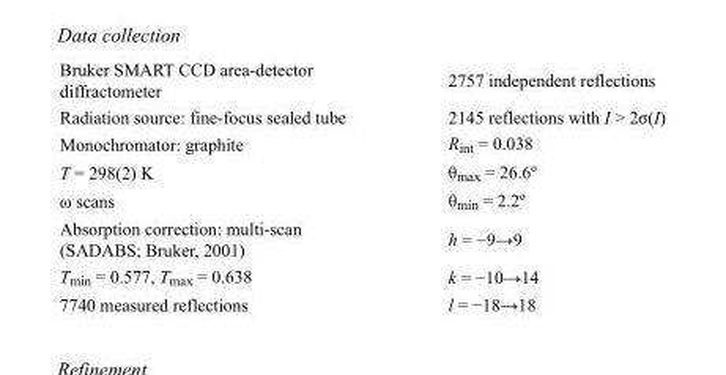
<table><tbody><tr><td>Bruker SMART CCD area-detector diffractometer</td><td>2757 independent reflections</td></tr><tr><td>Radiation source: fine-focus sealed tube</td><td>2145 reflections with I &gt; 2σ(I)</td></tr><tr><td>Monochromator: graphite</td><td>R<sub>int</sub> = 0.038</td></tr><tr><td>T = 298(2) K</td><td>θ<sub>max</sub> = 26.6º</td></tr><tr><td>ω scans</td><td>θ<sub>min</sub> = 2.2º</td></tr><tr><td>Absorption correction: multi-scan (SADABS; Bruker, 2001)</td><td>h = −9→9</td></tr><tr><td>T<sub>min</sub> = 0.577, T<sub>max</sub> = 0.638</td><td>k = −10→14</td></tr><tr><td>7740 measured reflections</td><td>l = −18→18</td></tr></tbody></table>